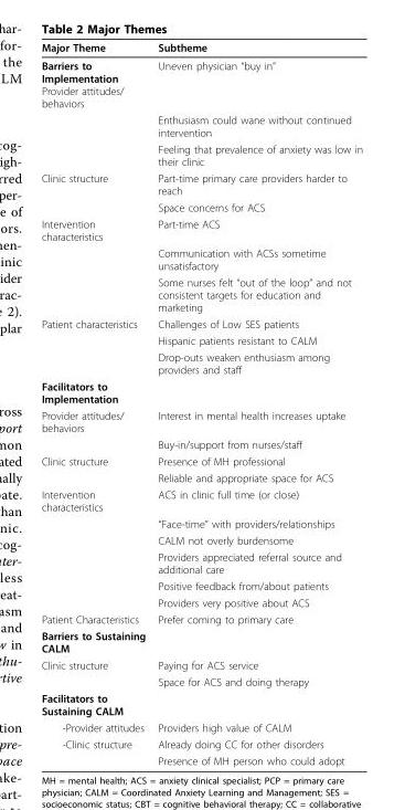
<table><thead><tr><td>Major Theme</td><td>Subtheme</td></tr></thead><tbody><tr><td rowspan="3">Barriers to Implementation Provider attitudes/ behaviors</td><td>Uneven physician “buy in”</td></tr><tr><td>Enthusiasm could wane without continued intervention</td></tr><tr><td>Feeling that prevalence of anxiety was low in their clinic</td></tr><tr><td rowspan="2">Clinic structure</td><td>Part-time primary care providers harder to reach</td></tr><tr><td>Space concerns for ACS</td></tr><tr><td rowspan="3">Intervention characteristics</td><td>Part-time ACS</td></tr><tr><td>Communication with ACSs sometime unsatisfactory</td></tr><tr><td>Some nurses felt “out of the loop” and not consistent targets for education and marketing</td></tr><tr><td rowspan="3">Patient characteristics</td><td>Challenges of Low SES patients</td></tr><tr><td>Hispanic patients resistant to CALM</td></tr><tr><td>Drop-outs weaken enthusiasm among providers and staff</td></tr><tr><td colspan="2">Facilitators to Implementation</td></tr><tr><td rowspan="2">Provider attitudes/ behaviors</td><td>Interest in mental health increases uptake</td></tr><tr><td>Buy-in/support from nurses/staff</td></tr><tr><td rowspan="2">Clinic structure</td><td>Presence of MH professional</td></tr><tr><td>Reliable and appropriate space for ACS</td></tr><tr><td rowspan="6">Intervention characteristics</td><td>ACS in clinic full time (or close)</td></tr><tr><td>“Face-time” with providers/relationships</td></tr><tr><td>CALM not overly burdensome</td></tr><tr><td>Providers appreciated referral source and additional care</td></tr><tr><td>Positive feedback from/about patients</td></tr><tr><td>Providers very positive about ACS</td></tr><tr><td>Patient Characteristics</td><td>Prefer coming to primary care</td></tr><tr><td colspan="2">Barriers to Sustaining CALM</td></tr><tr><td rowspan="2">Clinic structure</td><td>Paying for ACS service</td></tr><tr><td>Space for ACS and doing therapy</td></tr><tr><td colspan="2">Facilitators to Sustaining CALM</td></tr><tr><td>-Provider attitudes</td><td>Providers high value of CALM</td></tr><tr><td rowspan="2">-Clinic structure</td><td>Already doing CC for other disorders</td></tr><tr><td>Presence of MH person who could adopt</td></tr></tbody></table>